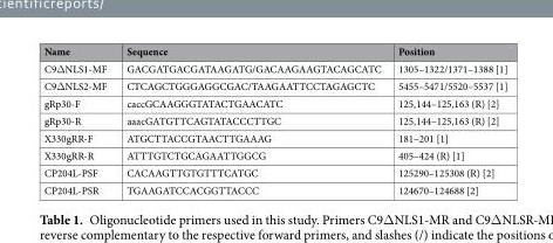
<table><thead><tr><td>Name</td><td>Sequence</td><td>Position</td></tr></thead><tbody><tr><td>C9ΔNLS1-MF</td><td>GACGATGACGATAAGATG/GACAAGAAGTACAGCATC</td><td>1305–1322/1371–1388 [1]</td></tr><tr><td>C9ΔNLS2-MF</td><td>CTCAGCTGGGAGGCGAC/TAAGAATTCCTAGAGCTC</td><td>5455–5471/5520–5537 [1]</td></tr><tr><td>gRp30-F</td><td>caccGCAAGGGTATACTGAACATC</td><td>125,144–125,163 (R) [2]</td></tr><tr><td>gRp30-R</td><td>aaacGATGTTCAGTATACCCTTGC</td><td>125,144–125,163 (R) [2]</td></tr><tr><td>X330gRR-F</td><td>ATGCTTACCGTAACTTGAAAG</td><td>181–201 [1]</td></tr><tr><td>X330gRR-R</td><td>ATTTGTCTGCAGAATTGGCG</td><td>405–424 (R) [1]</td></tr><tr><td>CP204L-PSF</td><td>CACAAGTTGTGTTTCATGC</td><td>125290–125308 (R) [2]</td></tr><tr><td>CP204L-PSR</td><td>TGAAGATCCACGGTTACCC</td><td>124670–124688 [2]</td></tr></tbody></table>